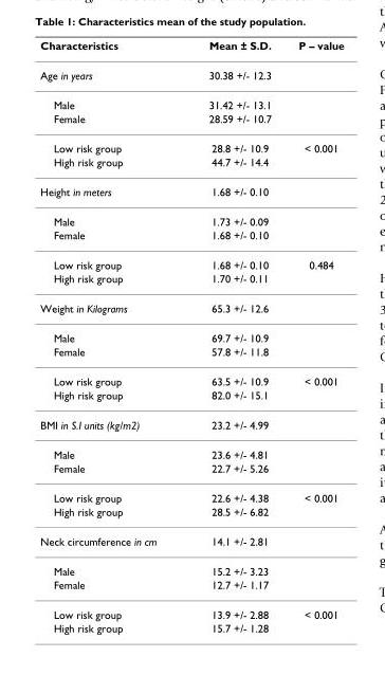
<table><thead><tr><td>Characteristics</td><td>Mean ± S.D.</td><td>P – value</td></tr></thead><tbody><tr><td>Age in years</td><td>30.38 +/- 12.3</td><td></td></tr><tr><td>Male</td><td>31.42 +/- 13.1</td><td></td></tr><tr><td>Female</td><td>28.59 +/- 10.7</td><td></td></tr><tr><td>Low risk group</td><td>28.8 +/- 10.9</td><td>&lt; 0.001</td></tr><tr><td>High risk group</td><td>44.7 +/- 14.4</td><td></td></tr><tr><td>Height in meters</td><td>1.68 +/- 0.10</td><td></td></tr><tr><td>Male</td><td>1.73 +/- 0.09</td><td></td></tr><tr><td>Female</td><td>1.68 +/- 0.10</td><td></td></tr><tr><td>Low risk group</td><td>1.68 +/- 0.10</td><td>0.484</td></tr><tr><td>High risk group</td><td>1.70 +/- 0.11</td><td></td></tr><tr><td>Weight in Kilograms</td><td>65.3 +/- 12.6</td><td></td></tr><tr><td>Male</td><td>69.7 +/- 10.9</td><td></td></tr><tr><td>Female</td><td>57.8 +/- 11.8</td><td></td></tr><tr><td>Low risk group</td><td>63.5 +/- 10.9</td><td>&lt; 0.001</td></tr><tr><td>High risk group</td><td>82.0 +/- 15.1</td><td></td></tr><tr><td>BMI in S.I units (kg/m2)</td><td>23.2 +/- 4.99</td><td></td></tr><tr><td>Male</td><td>23.6 +/- 4.81</td><td></td></tr><tr><td>Female</td><td>22.7 +/- 5.26</td><td></td></tr><tr><td>Low risk group</td><td>22.6 +/- 4.38</td><td>&lt; 0.001</td></tr><tr><td>High risk group</td><td>28.5 +/- 6.82</td><td></td></tr><tr><td>Neck circumference in cm</td><td>14.1 +/- 2.81</td><td></td></tr><tr><td>Male</td><td>15.2 +/- 3.23</td><td></td></tr><tr><td>Female</td><td>12.7 +/- 1.17</td><td></td></tr><tr><td>Low risk group</td><td>13.9 +/- 2.88</td><td>&lt; 0.001</td></tr><tr><td>High risk group</td><td>15.7 +/- 1.28</td><td></td></tr></tbody></table>